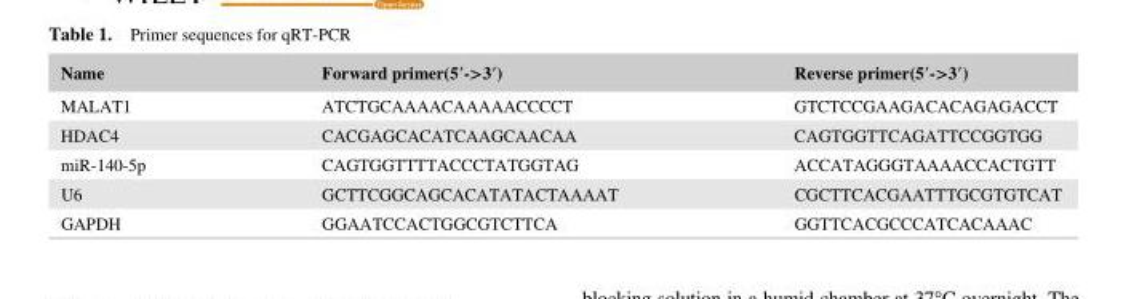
<table><thead><tr><td>Name</td><td>Forward primer(5′- &gt;3′)</td><td>Reverse primer(5′- &gt;3′)</td></tr></thead><tbody><tr><td>MALAT1</td><td>ATCTGCAAAACAAAAACCCCT</td><td>GTCTCCGAAGACACAGAGACCT</td></tr><tr><td>HDAC4</td><td>CACGAGCACATCAAGCAACAA</td><td>CAGTGGTTCAGATTCCGGTGG</td></tr><tr><td>miR- 140- 5p</td><td>CAGTGGTTTTACCCTATGGTAG</td><td>ACCATAGGGTAAAACCACTGTT</td></tr><tr><td>U6</td><td>GCTTCGGCAGCACATATACTAAAAT</td><td>CGCTTCACGAATTTGCGTGTCAT</td></tr><tr><td>GAPDH</td><td>GGAATCCACTGGCGTCTTCA</td><td>GGTTCACGCCCATCACAAAC</td></tr></tbody></table>